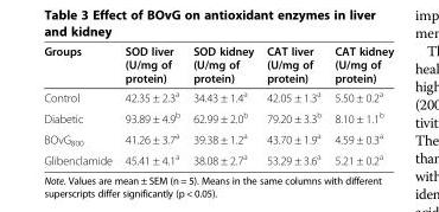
<table><thead><tr><td>Groups</td><td>SOD liver (U/mg of protein)</td><td>SOD kidney (U/mg of protein)</td><td>CAT liver (U/mg of protein)</td><td>CAT kidney (U/mg of protein)</td></tr></thead><tbody><tr><td>Control</td><td>42.35 ± 2.3<sup>a</sup></td><td>34.43 ± 1.4<sup>a</sup></td><td>42.05 ± 1.3<sup>a</sup></td><td>5.50 ± 0.2<sup>a</sup></td></tr><tr><td>Diabetic</td><td>93.89 ± 4.9<sup>b</sup></td><td>62.99 ± 2.0<sup>b</sup></td><td>79.20 ± 3.3<sup>b</sup></td><td>8.10 ± 1.1<sup>b</sup></td></tr><tr><td>BOvG<sub>800</sub></td><td>41.26 ± 3.7<sup>a</sup></td><td>39.38 ± 1.2<sup>a</sup></td><td>43.70 ± 1.9<sup>a</sup></td><td>4.59 ± 0.3<sup>a</sup></td></tr><tr><td>Glibenclamide</td><td>45.41 ± 4.1<sup>a</sup></td><td>38.08 ± 2.7<sup>a</sup></td><td>53.29 ± 3.6<sup>a</sup></td><td>5.21 ± 0.2<sup>a</sup></td></tr></tbody></table>